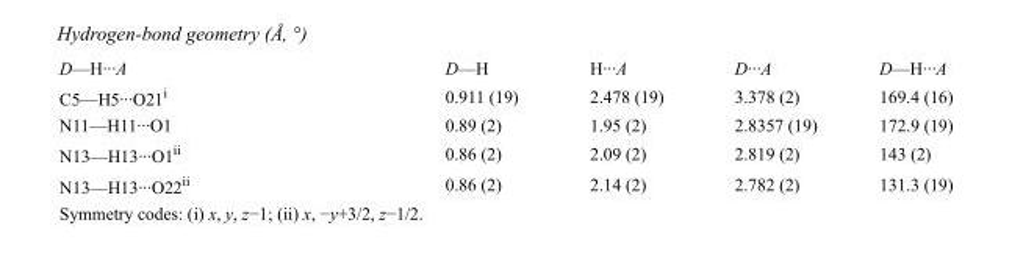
<table><tbody><tr><td>D—H···A</td><td>D—H</td><td>H···A</td><td>D···A</td><td>D—H···A</td></tr><tr><td>C5—H5···O21<sup>i</sup></td><td>0.911 (19)</td><td>2.478 (19)</td><td>3.378 (2)</td><td>169.4 (16)</td></tr><tr><td>N11—H11···O1</td><td>0.89 (2)</td><td>1.95 (2)</td><td>2.8357 (19)</td><td>172.9 (19)</td></tr><tr><td>N13—H13···O1<sup>ii</sup></td><td>0.86 (2)</td><td>2.09 (2)</td><td>2.819 (2)</td><td>143 (2)</td></tr><tr><td>N13—H13···O22<sup>ii</sup></td><td>0.86 (2)</td><td>2.14 (2)</td><td>2.782 (2)</td><td>131.3 (19)</td></tr></tbody></table>